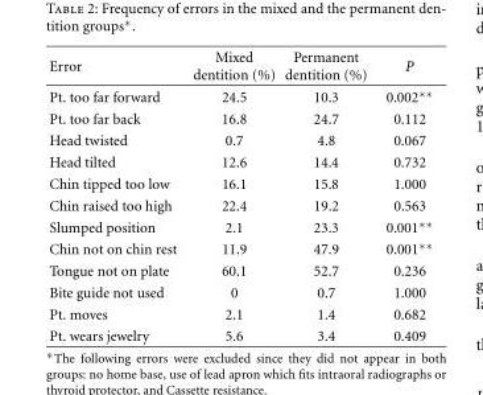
<table><thead><tr><td>Error</td><td>Mixed dentition (%)</td><td>Permanent dentition (%)</td><td>P</td></tr></thead><tbody><tr><td>Pt. too far forward</td><td>24.5</td><td>10.3</td><td>0.002∗∗</td></tr><tr><td>Pt. too far back</td><td>16.8</td><td>24.7</td><td>0.112</td></tr><tr><td>Head twisted</td><td>0.7</td><td>4.8</td><td>0.067</td></tr><tr><td>Head tilted</td><td>12.6</td><td>14.4</td><td>0.732</td></tr><tr><td>Chin tipped too low</td><td>16.1</td><td>15.8</td><td>1.000</td></tr><tr><td>Chin raised too high</td><td>22.4</td><td>19.2</td><td>0.563</td></tr><tr><td>Slumped position</td><td>2.1</td><td>23.3</td><td>0.001∗∗</td></tr><tr><td>Chin not on chin rest</td><td>11.9</td><td>47.9</td><td>0.001∗∗</td></tr><tr><td>Tongue not on plate</td><td>60.1</td><td>52.7</td><td>0.236</td></tr><tr><td>Bite guide not used</td><td>0</td><td>0.7</td><td>1.000</td></tr><tr><td>Pt. moves</td><td>2.1</td><td>1.4</td><td>0.682</td></tr><tr><td>Pt. wears jewelry</td><td>5.6</td><td>3.4</td><td>0.409</td></tr></tbody></table>